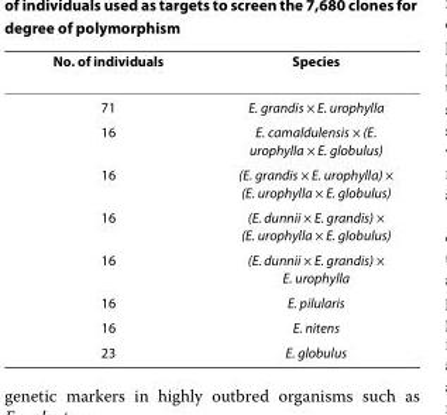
<table><thead><tr><td>No. of individuals</td><td>Species</td></tr></thead><tbody><tr><td>71</td><td>E. grandis × E. urophylla</td></tr><tr><td>16</td><td>E. camaldulensis × (E. urophylla × E. globulus)</td></tr><tr><td>16</td><td>(E. grandis × E. urophylla) × (E. urophylla × E. globulus)</td></tr><tr><td>16</td><td>(E. dunnii × E. grandis) × (E. urophylla × E. globulus)</td></tr><tr><td>16</td><td>(E. dunnii × E. grandis) × E. urophylla</td></tr><tr><td>16</td><td>E. pilularis</td></tr><tr><td>16</td><td>E. nitens</td></tr><tr><td>23</td><td>E. globulus</td></tr></tbody></table>